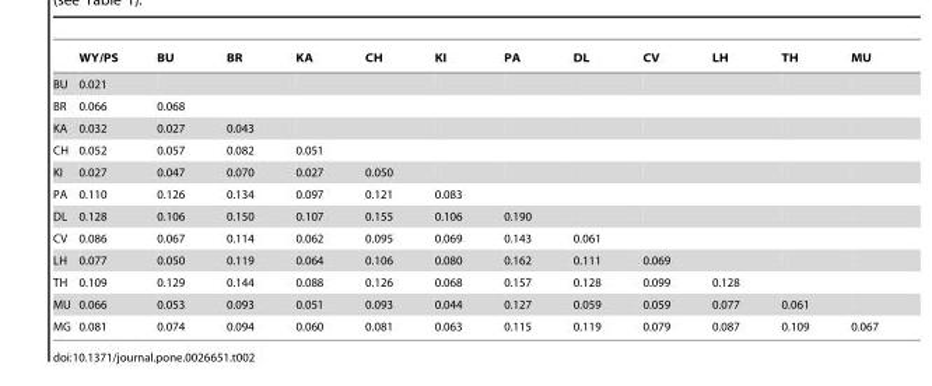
<table><thead><tr><td></td><td>WY/PS</td><td>BU</td><td>BR</td><td>KA</td><td>CH</td><td>KI</td><td>PA</td><td>DL</td><td>CV</td><td>LH</td><td>TH</td><td>MU</td></tr></thead><tbody><tr><td>BU</td><td>0.021</td><td></td><td></td><td></td><td></td><td></td><td></td><td></td><td></td><td></td><td></td><td></td></tr><tr><td>BR</td><td>0.066</td><td>0.068</td><td></td><td></td><td></td><td></td><td></td><td></td><td></td><td></td><td></td><td></td></tr><tr><td>KA</td><td>0.032</td><td>0.027</td><td>0.043</td><td></td><td></td><td></td><td></td><td></td><td></td><td></td><td></td><td></td></tr><tr><td>CH</td><td>0.052</td><td>0.057</td><td>0.082</td><td>0.051</td><td></td><td></td><td></td><td></td><td></td><td></td><td></td><td></td></tr><tr><td>KI</td><td>0.027</td><td>0.047</td><td>0.070</td><td>0.027</td><td>0.050</td><td></td><td></td><td></td><td></td><td></td><td></td><td></td></tr><tr><td>PA</td><td>0.110</td><td>0.126</td><td>0.134</td><td>0.097</td><td>0.121</td><td>0.083</td><td></td><td></td><td></td><td></td><td></td><td></td></tr><tr><td>DL</td><td>0.128</td><td>0.106</td><td>0.150</td><td>0.107</td><td>0.155</td><td>0.106</td><td>0.190</td><td></td><td></td><td></td><td></td><td></td></tr><tr><td>CV</td><td>0.086</td><td>0.067</td><td>0.114</td><td>0.062</td><td>0.095</td><td>0.069</td><td>0.143</td><td>0.061</td><td></td><td></td><td></td><td></td></tr><tr><td>LH</td><td>0.077</td><td>0.050</td><td>0.119</td><td>0.064</td><td>0.106</td><td>0.080</td><td>0.162</td><td>0.111</td><td>0.069</td><td></td><td></td><td></td></tr><tr><td>TH</td><td>0.109</td><td>0.129</td><td>0.144</td><td>0.088</td><td>0.126</td><td>0.068</td><td>0.157</td><td>0.128</td><td>0.099</td><td>0.128</td><td></td><td></td></tr><tr><td>MU</td><td>0.066</td><td>0.053</td><td>0.093</td><td>0.051</td><td>0.093</td><td>0.044</td><td>0.127</td><td>0.059</td><td>0.059</td><td>0.077</td><td>0.061</td><td></td></tr><tr><td>MG</td><td>0.081</td><td>0.074</td><td>0.094</td><td>0.060</td><td>0.081</td><td>0.063</td><td>0.115</td><td>0.119</td><td>0.079</td><td>0.087</td><td>0.109</td><td>0.067</td></tr></tbody></table>